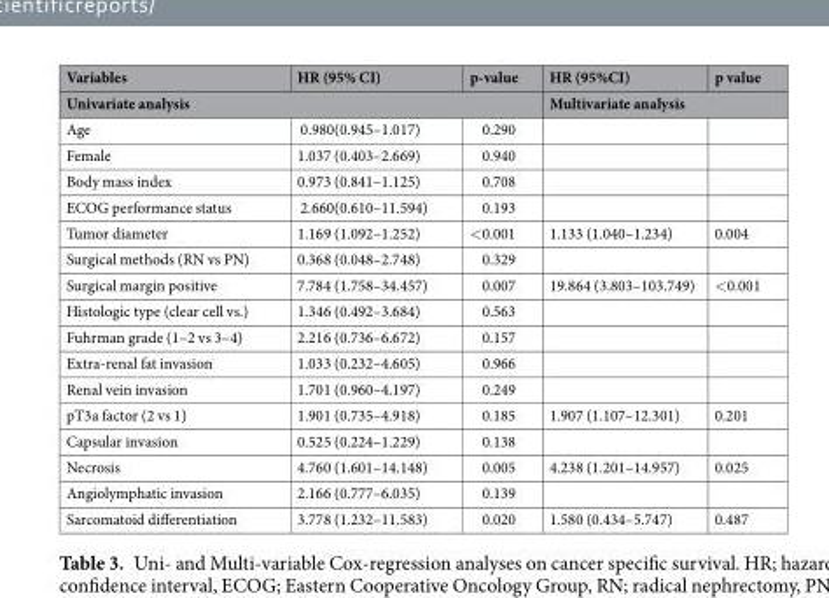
<table><thead><tr><td>Variables</td><td>HR (95% CI)</td><td>p-value</td><td>HR (95%CI)</td><td>p value</td></tr><tr><td colspan="3">Univariate analysis</td><td colspan="2">Multivariate analysis</td></tr></thead><tbody><tr><td>Age</td><td>0.980(0.945–1.017)</td><td>0.290</td><td></td><td></td></tr><tr><td>Female</td><td>1.037 (0.403–2.669)</td><td>0.940</td><td></td><td></td></tr><tr><td>Body mass index</td><td>0.973 (0.841–1.125)</td><td>0.708</td><td></td><td></td></tr><tr><td>ECOG performance status</td><td>2.660(0.610–11.594)</td><td>0.193</td><td></td><td></td></tr><tr><td>Tumor diameter</td><td>1.169 (1.092–1.252)</td><td>&lt;0.001</td><td>1.133 (1.040–1.234)</td><td>0.004</td></tr><tr><td>Surgical methods (RN vs PN)</td><td>0.368 (0.048–2.748)</td><td>0.329</td><td></td><td></td></tr><tr><td>Surgical margin positive</td><td>7.784 (1.758–34.457)</td><td>0.007</td><td>19.864 (3.803–103.749)</td><td>&lt;0.001</td></tr><tr><td>Histologic type (clear cell vs.)</td><td>1.346 (0.492–3.684)</td><td>0.563</td><td></td><td></td></tr><tr><td>Fuhrman grade (1–2 vs 3–4)</td><td>2.216 (0.736–6.672)</td><td>0.157</td><td></td><td></td></tr><tr><td>Extra-renal fat invasion</td><td>1.033 (0.232–4.605)</td><td>0.966</td><td></td><td></td></tr><tr><td>Renal vein invasion</td><td>1.701 (0.960–4.197)</td><td>0.249</td><td></td><td></td></tr><tr><td>pT3a factor (2 vs 1)</td><td>1.901 (0.735–4.918)</td><td>0.185</td><td>1.907 (1.107–12.301)</td><td>0.201</td></tr><tr><td>Capsular invasion</td><td>0.525 (0.224–1.229)</td><td>0.138</td><td></td><td></td></tr><tr><td>Necrosis</td><td>4.760 (1.601–14.148)</td><td>0.005</td><td>4.238 (1.201–14.957)</td><td>0.025</td></tr><tr><td>Angiolymphatic invasion</td><td>2.166 (0.777–6.035)</td><td>0.139</td><td></td><td></td></tr><tr><td>Sarcomatoid differentiation</td><td>3.778 (1.232–11.583)</td><td>0.020</td><td>1.580 (0.434–5.747)</td><td>0.487</td></tr></tbody></table>